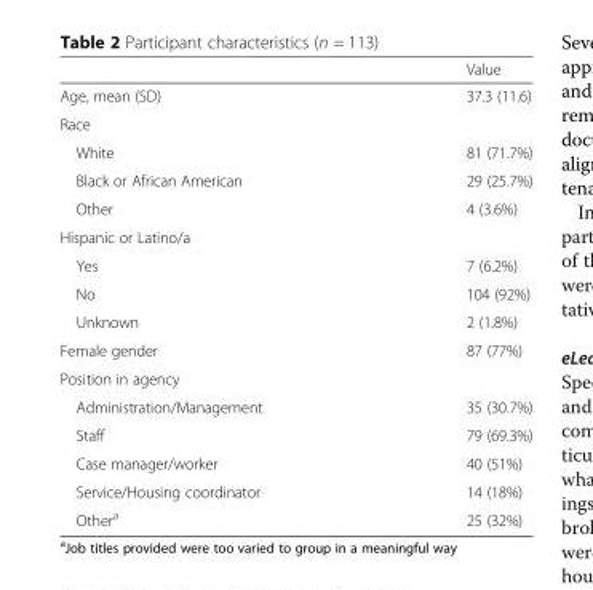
<table><thead><tr><td></td><td>Value</td></tr></thead><tbody><tr><td>Age, mean (SD)</td><td>37.3 (11.6)</td></tr><tr><td colspan="2">Race</td></tr><tr><td>White</td><td>81 (71.7%)</td></tr><tr><td>Black or African American</td><td>29 (25.7%)</td></tr><tr><td>Other</td><td>4 (3.6%)</td></tr><tr><td colspan="2">Hispanic or Latino/a</td></tr><tr><td>Yes</td><td>7 (6.2%)</td></tr><tr><td>No</td><td>104 (92%)</td></tr><tr><td>Unknown</td><td>2 (1.8%)</td></tr><tr><td>Female gender</td><td>87 (77%)</td></tr><tr><td colspan="2">Position in agency</td></tr><tr><td>Administration/Management</td><td>35 (30.7%)</td></tr><tr><td>Staff</td><td>79 (69.3%)</td></tr><tr><td>Case manager/worker</td><td>40 (51%)</td></tr><tr><td>Service/Housing coordinator</td><td>14 (18%)</td></tr><tr><td>Other<sup>a</sup></td><td>25 (32%)</td></tr></tbody></table>